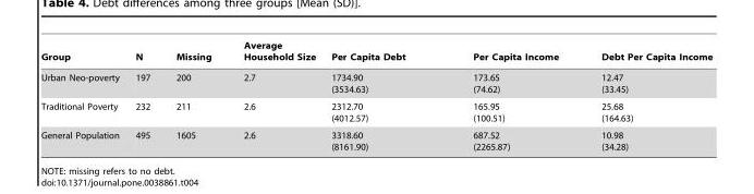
<table><thead><tr><td>Group</td><td>N</td><td>Missing</td><td>Average Household Size</td><td>Per Capita Debt</td><td>Per Capita Income</td><td>Debt Per Capita Income</td></tr></thead><tbody><tr><td>Urban Neo-poverty</td><td>197</td><td>200</td><td>2.7</td><td>1734.90 (3534.63)</td><td>173.65 (74.62)</td><td>12.47 (33.45)</td></tr><tr><td>Traditional Poverty</td><td>232</td><td>211</td><td>2.6</td><td>2312.70 (4012.57)</td><td>165.95 (100.51)</td><td>25.68 (164.63)</td></tr><tr><td>General Population</td><td>495</td><td>1605</td><td>2.6</td><td>3318.60 (8161.90)</td><td>687.52 (2265.87)</td><td>10.98 (34.28)</td></tr></tbody></table>